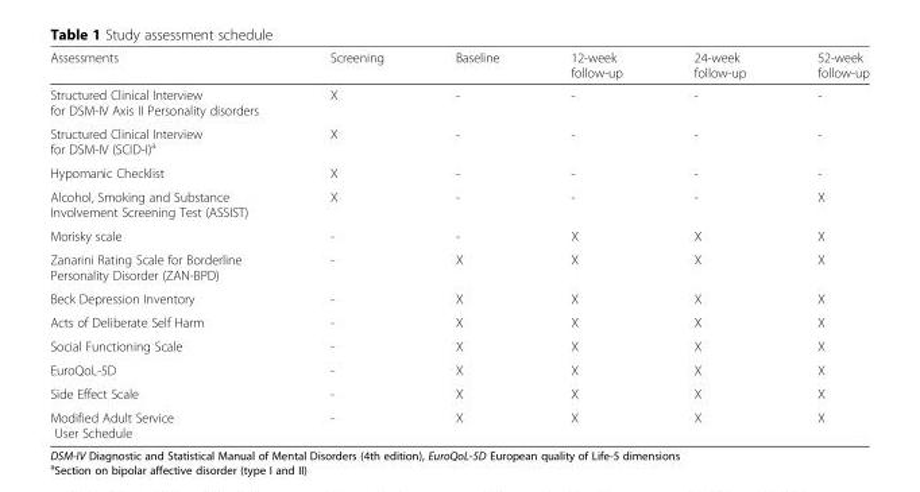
<table><thead><tr><td>Assessments</td><td>Screening</td><td>Baseline</td><td>12-week follow-up</td><td>24-week follow-up</td><td>52-week follow-up</td></tr></thead><tbody><tr><td>Structured Clinical Interview for DSM-IV Axis II Personality disorders</td><td>X</td><td>-</td><td>-</td><td>-</td><td>-</td></tr><tr><td>Structured Clinical Interview for DSM-IV (SCID-I)<sup>a</sup></td><td>X</td><td>-</td><td>-</td><td>-</td><td>-</td></tr><tr><td>Hypomanic Checklist</td><td>X</td><td>-</td><td>-</td><td>-</td><td>-</td></tr><tr><td>Alcohol, Smoking and Substance Involvement Screening Test (ASSIST)</td><td>X</td><td>-</td><td>-</td><td>-</td><td>X</td></tr><tr><td>Morisky scale</td><td>-</td><td>-</td><td>X</td><td>X</td><td>X</td></tr><tr><td>Zanarini Rating Scale for Borderline Personality Disorder (ZAN-BPD)</td><td>-</td><td>X</td><td>X</td><td>X</td><td>X</td></tr><tr><td>Beck Depression Inventory</td><td>-</td><td>X</td><td>X</td><td>X</td><td>X</td></tr><tr><td>Acts of Deliberate Self Harm</td><td>-</td><td>X</td><td>X</td><td>X</td><td>X</td></tr><tr><td>Social Functioning Scale</td><td>-</td><td>X</td><td>X</td><td>X</td><td>X</td></tr><tr><td>EuroQoL-5D</td><td>-</td><td>X</td><td>X</td><td>X</td><td>X</td></tr><tr><td>Side Effect Scale</td><td>-</td><td>X</td><td>X</td><td>X</td><td>X</td></tr><tr><td>Modified Adult Service User Schedule</td><td>-</td><td>X</td><td>X</td><td>X</td><td>X</td></tr></tbody></table>